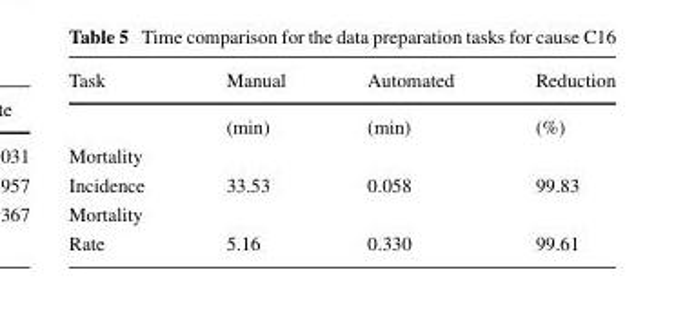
<table><thead><tr><td>Task</td><td>Manual</td><td>Automated</td><td>Reduction</td></tr></thead><tbody><tr><td></td><td>(min)</td><td>(min)</td><td>(%)</td></tr><tr><td colspan="4">Mortality</td></tr><tr><td>Incidence</td><td>33.53</td><td>0.058</td><td>99.83</td></tr><tr><td colspan="4">Mortality</td></tr><tr><td>Rate</td><td>5.16</td><td>0.330</td><td>99.61</td></tr></tbody></table>